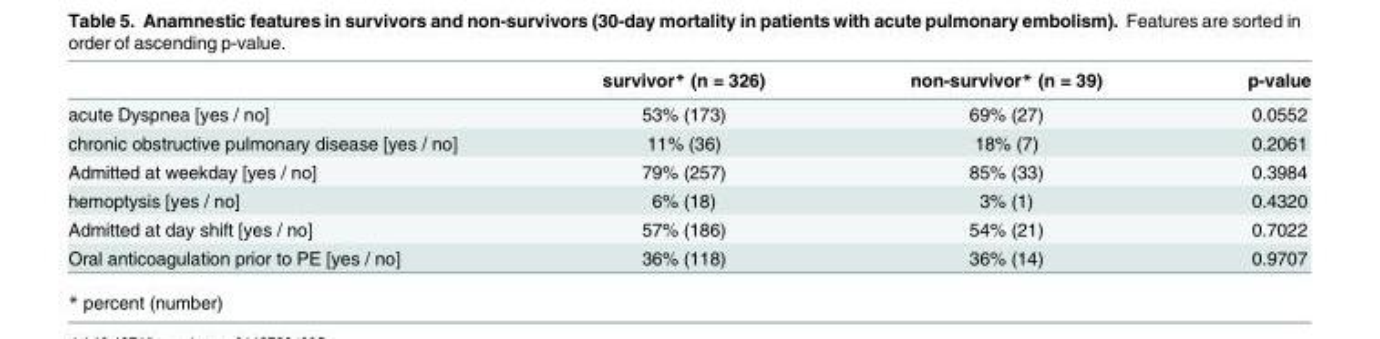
<table><thead><tr><td></td><td>survivor* (n = 326)</td><td>non-survivor* (n = 39)</td><td>p-value</td></tr></thead><tbody><tr><td>acute Dyspnea [yes / no]</td><td>53% (173)</td><td>69% (27)</td><td>0.0552</td></tr><tr><td>chronic obstructive pulmonary disease [yes / no]</td><td>11% (36)</td><td>18% (7)</td><td>0.2061</td></tr><tr><td>Admitted at weekday [yes / no]</td><td>79% (257)</td><td>85% (33)</td><td>0.3984</td></tr><tr><td>hemoptysis [yes / no]</td><td>6% (18)</td><td>3% (1)</td><td>0.4320</td></tr><tr><td>Admitted at day shift [yes / no]</td><td>57% (186)</td><td>54% (21)</td><td>0.7022</td></tr><tr><td>Oral anticoagulation prior to PE [yes / no]</td><td>36% (118)</td><td>36% (14)</td><td>0.9707</td></tr></tbody></table>